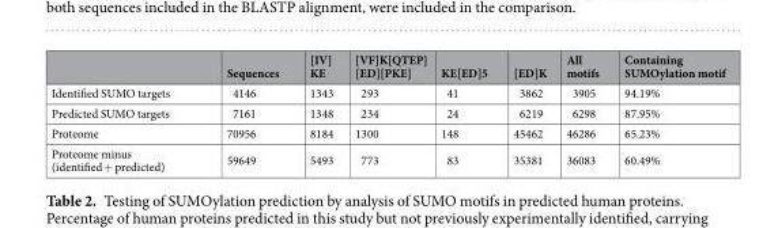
<table><thead><tr><td></td><td>Sequences</td><td>[IV] KE</td><td>[VF]K[QTEP] [ED][PKE]</td><td>KE[ED]5</td><td>[ED]K</td><td>All motifs</td><td>Containing SUMOylation motif</td></tr></thead><tbody><tr><td>Identified SUMO targets</td><td>4146</td><td>1343</td><td>293</td><td>41</td><td>3862</td><td>3905</td><td>94.19%</td></tr><tr><td>Predicted SUMO targets</td><td>7161</td><td>1348</td><td>234</td><td>24</td><td>6219</td><td>6298</td><td>87.95%</td></tr><tr><td>Proteome</td><td>70956</td><td>8184</td><td>1300</td><td>148</td><td>45462</td><td>46286</td><td>65.23%</td></tr><tr><td>Proteome minus (identified + predicted)</td><td>59649</td><td>5493</td><td>773</td><td>83</td><td>35381</td><td>36083</td><td>60.49%</td></tr></tbody></table>